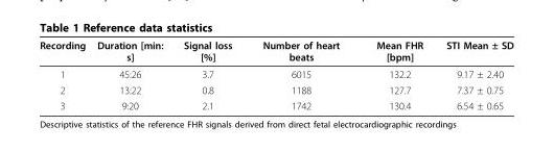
<table><thead><tr><td>Recording</td><td>Duration [min: s]</td><td>Signal loss [%]</td><td>Number of heart beats</td><td>Mean FHR [bpm]</td><td>STI Mean ± SD</td></tr></thead><tbody><tr><td>1</td><td>45:26</td><td>3.7</td><td>6015</td><td>132.2</td><td>9.17 ± 2.40</td></tr><tr><td>2</td><td>13:22</td><td>0.8</td><td>1188</td><td>127.7</td><td>7.37 ± 0.75</td></tr><tr><td>3</td><td>9:20</td><td>2.1</td><td>1742</td><td>130.4</td><td>6.54 ± 0.65</td></tr></tbody></table>